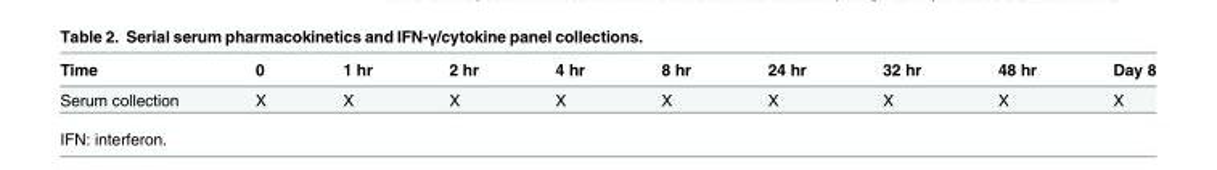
<table><thead><tr><td>Time</td><td>0</td><td>1 hr</td><td>2 hr</td><td>4 hr</td><td>8 hr</td><td>24 hr</td><td>32 hr</td><td>48 hr</td><td>Day 8</td></tr></thead><tbody><tr><td>Serum collection</td><td>X</td><td>X</td><td>X</td><td>X</td><td>X</td><td>X</td><td>X</td><td>X</td><td>X</td></tr></tbody></table>